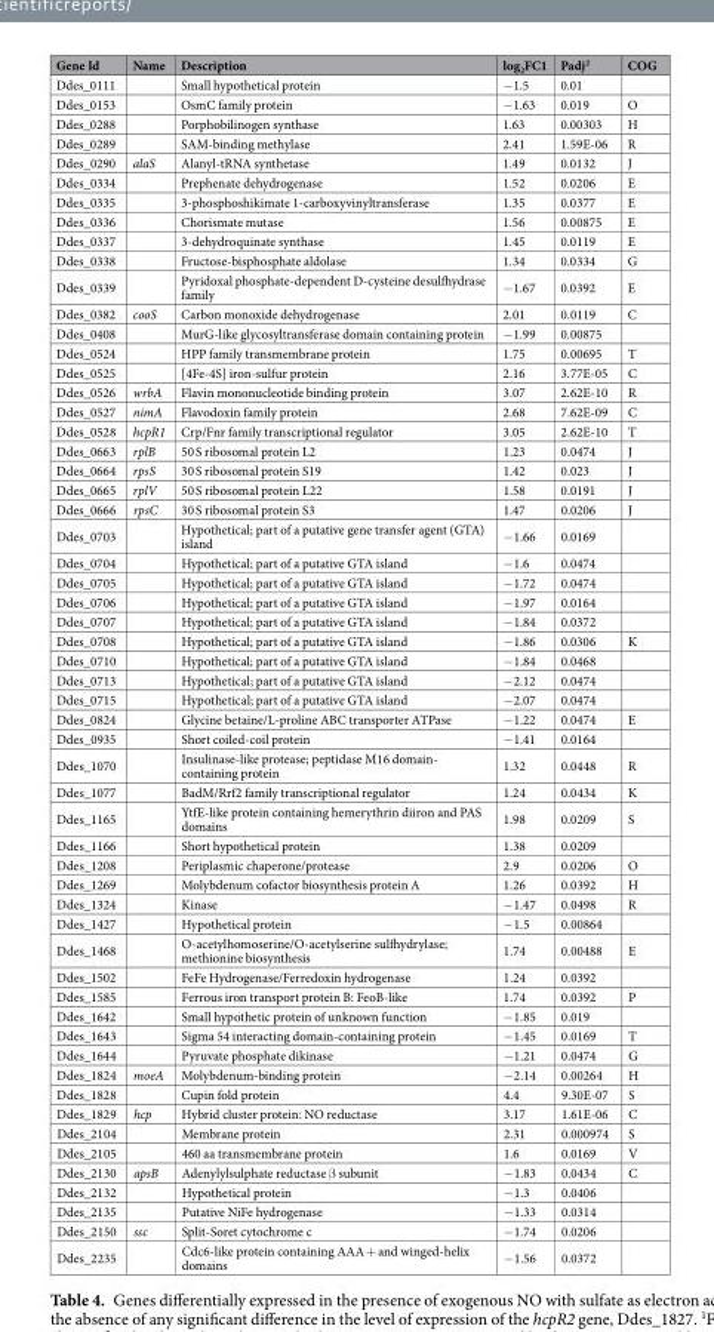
<table><thead><tr><td>Gene Id</td><td>Name</td><td>Description</td><td>log<sub>2</sub>FC1</td><td>Padj<sup>2</sup></td><td>COG</td></tr></thead><tbody><tr><td>Ddes_0111</td><td></td><td>Small hypothetical protein</td><td>−1.5</td><td>0.01</td><td></td></tr><tr><td>Ddes_0153</td><td></td><td>OsmC family protein</td><td>−1.63</td><td>0.019</td><td>O</td></tr><tr><td>Ddes_0288</td><td></td><td>Porphobilinogen synthase</td><td>1.63</td><td>0.00303</td><td>H</td></tr><tr><td>Ddes_0289</td><td></td><td>SAM-binding methylase</td><td>2.41</td><td>1.59E-06</td><td>R</td></tr><tr><td>Ddes_0290</td><td>alaS</td><td>Alanyl-tRNA synthetase</td><td>1.49</td><td>0.0132</td><td>J</td></tr><tr><td>Ddes_0334</td><td></td><td>Prephenate dehydrogenase</td><td>1.52</td><td>0.0206</td><td>E</td></tr><tr><td>Ddes_0335</td><td></td><td>3-phosphoshikimate 1-carboxyvinyltransferase</td><td>1.35</td><td>0.0377</td><td>E</td></tr><tr><td>Ddes_0336</td><td></td><td>Chorismate mutase</td><td>1.56</td><td>0.00875</td><td>E</td></tr><tr><td>Ddes_0337</td><td></td><td>3-dehydroquinate synthase</td><td>1.45</td><td>0.0119</td><td>E</td></tr><tr><td>Ddes_0338</td><td></td><td>Fructose-bisphosphate aldolase</td><td>1.34</td><td>0.0334</td><td>G</td></tr><tr><td>Ddes_0339</td><td></td><td>Pyridoxal phosphate-dependent D-cysteine desulfhydrase family</td><td>−1.67</td><td>0.0392</td><td>E</td></tr><tr><td>Ddes_0382</td><td>cooS</td><td>Carbon monoxide dehydrogenase</td><td>2.01</td><td>0.0119</td><td>C</td></tr><tr><td>Ddes_0408</td><td></td><td>MurG-like glycosyltransferase domain containing protein</td><td>−1.99</td><td>0.00875</td><td></td></tr><tr><td>Ddes_0524</td><td></td><td>HPP family transmembrane protein</td><td>1.75</td><td>0.00695</td><td>T</td></tr><tr><td>Ddes_0525</td><td></td><td>[4Fe-4S] iron-sulfur protein</td><td>2.16</td><td>3.77E-05</td><td>C</td></tr><tr><td>Ddes_0526</td><td>wrbA</td><td>Flavin mononucleotide binding protein</td><td>3.07</td><td>2.62E-10</td><td>R</td></tr><tr><td>Ddes_0527</td><td>nimA</td><td>Flavodoxin family protein</td><td>2.68</td><td>7.62E-09</td><td>C</td></tr><tr><td>Ddes_0528</td><td>hcpR1</td><td>Crp/Fnr family transcriptional regulator</td><td>3.05</td><td>2.62E-10</td><td>T</td></tr><tr><td>Ddes_0663</td><td>rplB</td><td>50 S ribosomal protein L2</td><td>1.23</td><td>0.0474</td><td>J</td></tr><tr><td>Ddes_0664</td><td>rpsS</td><td>30 S ribosomal protein S19</td><td>1.42</td><td>0.023</td><td>J</td></tr><tr><td>Ddes_0665</td><td>rplV</td><td>50 S ribosomal protein L22</td><td>1.58</td><td>0.0191</td><td>J</td></tr><tr><td>Ddes_0666</td><td>rpsC</td><td>30 S ribosomal protein S3</td><td>1.47</td><td>0.0206</td><td>J</td></tr><tr><td>Ddes_0703</td><td></td><td>Hypothetical; part of a putative gene transfer agent (GTA) island</td><td>−1.66</td><td>0.0169</td><td></td></tr><tr><td>Ddes_0704</td><td></td><td>Hypothetical; part of a putative GTA island</td><td>−1.6</td><td>0.0474</td><td></td></tr><tr><td>Ddes_0705</td><td></td><td>Hypothetical; part of a putative GTA island</td><td>−1.72</td><td>0.0474</td><td></td></tr><tr><td>Ddes_0706</td><td></td><td>Hypothetical; part of a putative GTA island</td><td>−1.97</td><td>0.0164</td><td></td></tr><tr><td>Ddes_0707</td><td></td><td>Hypothetical; part of a putative GTA island</td><td>−1.84</td><td>0.0372</td><td></td></tr><tr><td>Ddes_0708</td><td></td><td>Hypothetical; part of a putative GTA island</td><td>−1.86</td><td>0.0306</td><td>K</td></tr><tr><td>Ddes_0710</td><td></td><td>Hypothetical; part of a putative GTA island</td><td>−1.84</td><td>0.0468</td><td></td></tr><tr><td>Ddes_0713</td><td></td><td>Hypothetical; part of a putative GTA island</td><td>−2.12</td><td>0.0474</td><td></td></tr><tr><td>Ddes_0715</td><td></td><td>Hypothetical; part of a putative GTA island</td><td>−2.07</td><td>0.0474</td><td></td></tr><tr><td>Ddes_0824</td><td></td><td>Glycine betaine/L-proline ABC transporter ATPase</td><td>−1.22</td><td>0.0474</td><td>E</td></tr><tr><td>Ddes_0935</td><td></td><td>Short coiled-coil protein</td><td>−1.41</td><td>0.0164</td><td></td></tr><tr><td>Ddes_1070</td><td></td><td>Insulinase-like protease; peptidase M16 domain- containing protein</td><td>1.32</td><td>0.0448</td><td>R</td></tr><tr><td>Ddes_1077</td><td></td><td>BadM/Rrf2 family transcriptional regulator</td><td>1.24</td><td>0.0434</td><td>K</td></tr><tr><td>Ddes_1165</td><td></td><td>YtfE-like protein containing hemerythrin diiron and PAS domains</td><td>1.98</td><td>0.0209</td><td>S</td></tr><tr><td>Ddes_1166</td><td></td><td>Short hypothetical protein</td><td>1.38</td><td>0.0209</td><td></td></tr><tr><td>Ddes_1208</td><td></td><td>Periplasmic chaperone/protease</td><td>2.9</td><td>0.0206</td><td>O</td></tr><tr><td>Ddes_1269</td><td></td><td>Molybdenum cofactor biosynthesis protein A</td><td>1.26</td><td>0.0392</td><td>H</td></tr><tr><td>Ddes_1324</td><td></td><td>Kinase</td><td>−1.47</td><td>0.0498</td><td>R</td></tr><tr><td>Ddes_1427</td><td></td><td>Hypothetical protein</td><td>−1.5</td><td>0.00864</td><td></td></tr><tr><td>Ddes_1468</td><td></td><td>O-acetylhomoserine/O-acetylserine sulfhydrylase; methionine biosynthesis</td><td>1.74</td><td>0.00488</td><td>E</td></tr><tr><td>Ddes_1502</td><td></td><td>FeFe Hydrogenase/Ferredoxin hydrogenase</td><td>1.24</td><td>0.0392</td><td></td></tr><tr><td>Ddes_1585</td><td></td><td>Ferrous iron transport protein B: FeoB-like</td><td>1.74</td><td>0.0392</td><td>P</td></tr><tr><td>Ddes_1642</td><td></td><td>Small hypothetic protein of unknown function</td><td>−1.85</td><td>0.019</td><td></td></tr><tr><td>Ddes_1643</td><td></td><td>Sigma 54 interacting domain-containing protein</td><td>−1.45</td><td>0.0169</td><td>T</td></tr><tr><td>Ddes_1644</td><td></td><td>Pyruvate phosphate dikinase</td><td>−1.21</td><td>0.0474</td><td>G</td></tr><tr><td>Ddes_1824</td><td>moeA</td><td>Molybdenum-binding protein</td><td>−2.14</td><td>0.00264</td><td>H</td></tr><tr><td>Ddes_1828</td><td></td><td>Cupin fold protein</td><td>4.4</td><td>9.30E-07</td><td>S</td></tr><tr><td>Ddes_1829</td><td>hcp</td><td>Hybrid cluster protein: NO reductase</td><td>3.17</td><td>1.61E-06</td><td>C</td></tr><tr><td>Ddes_2104</td><td></td><td>Membrane protein</td><td>2.31</td><td>0.000974</td><td>S</td></tr><tr><td>Ddes_2105</td><td></td><td>460 aa transmembrane protein</td><td>1.6</td><td>0.0169</td><td>V</td></tr><tr><td>Ddes_2130</td><td>apsB</td><td>Adenylylsulphate reductase β subunit</td><td>−1.83</td><td>0.0434</td><td>C</td></tr><tr><td>Ddes_2132</td><td></td><td>Hypothetical protein</td><td>−1.3</td><td>0.0406</td><td></td></tr><tr><td>Ddes_2135</td><td></td><td>Putative NiFe hydrogenase</td><td>−1.33</td><td>0.0314</td><td></td></tr><tr><td>Ddes_2150</td><td>ssc</td><td>Split-Soret cytochrome c</td><td>−1.74</td><td>0.0206</td><td></td></tr><tr><td>Ddes_2235</td><td></td><td>Cdc6-like protein containing AAA + and winged-helix domains</td><td>−1.56</td><td>0.0372</td><td></td></tr></tbody></table>